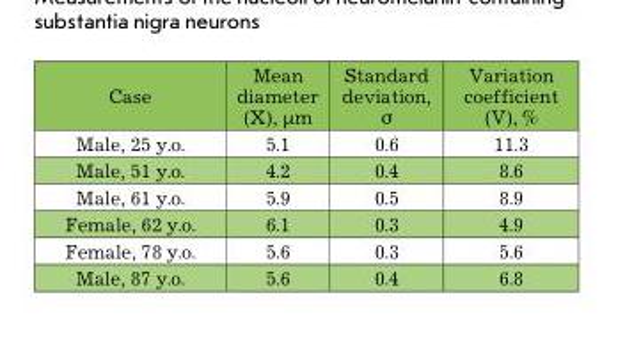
<table><thead><tr><td>Case</td><td>Mean diameter (X), µm</td><td>Standard deviation, σ</td><td>Variation coefficient (V), %</td></tr></thead><tbody><tr><td>Male, 25 y.o.</td><td>5.1</td><td>0.6</td><td>11.3</td></tr><tr><td>Male, 51 y.o.</td><td>4.2</td><td>0.4</td><td>8.6</td></tr><tr><td>Male, 61 y.o.</td><td>5.9</td><td>0.5</td><td>8.9</td></tr><tr><td>Female, 62 y.o.</td><td>6.1</td><td>0.3</td><td>4.9</td></tr><tr><td>Female, 78 y.o.</td><td>5.6</td><td>0.3</td><td>5.6</td></tr><tr><td>Male, 87 y.o.</td><td>5.6</td><td>0.4</td><td>6.8</td></tr></tbody></table>